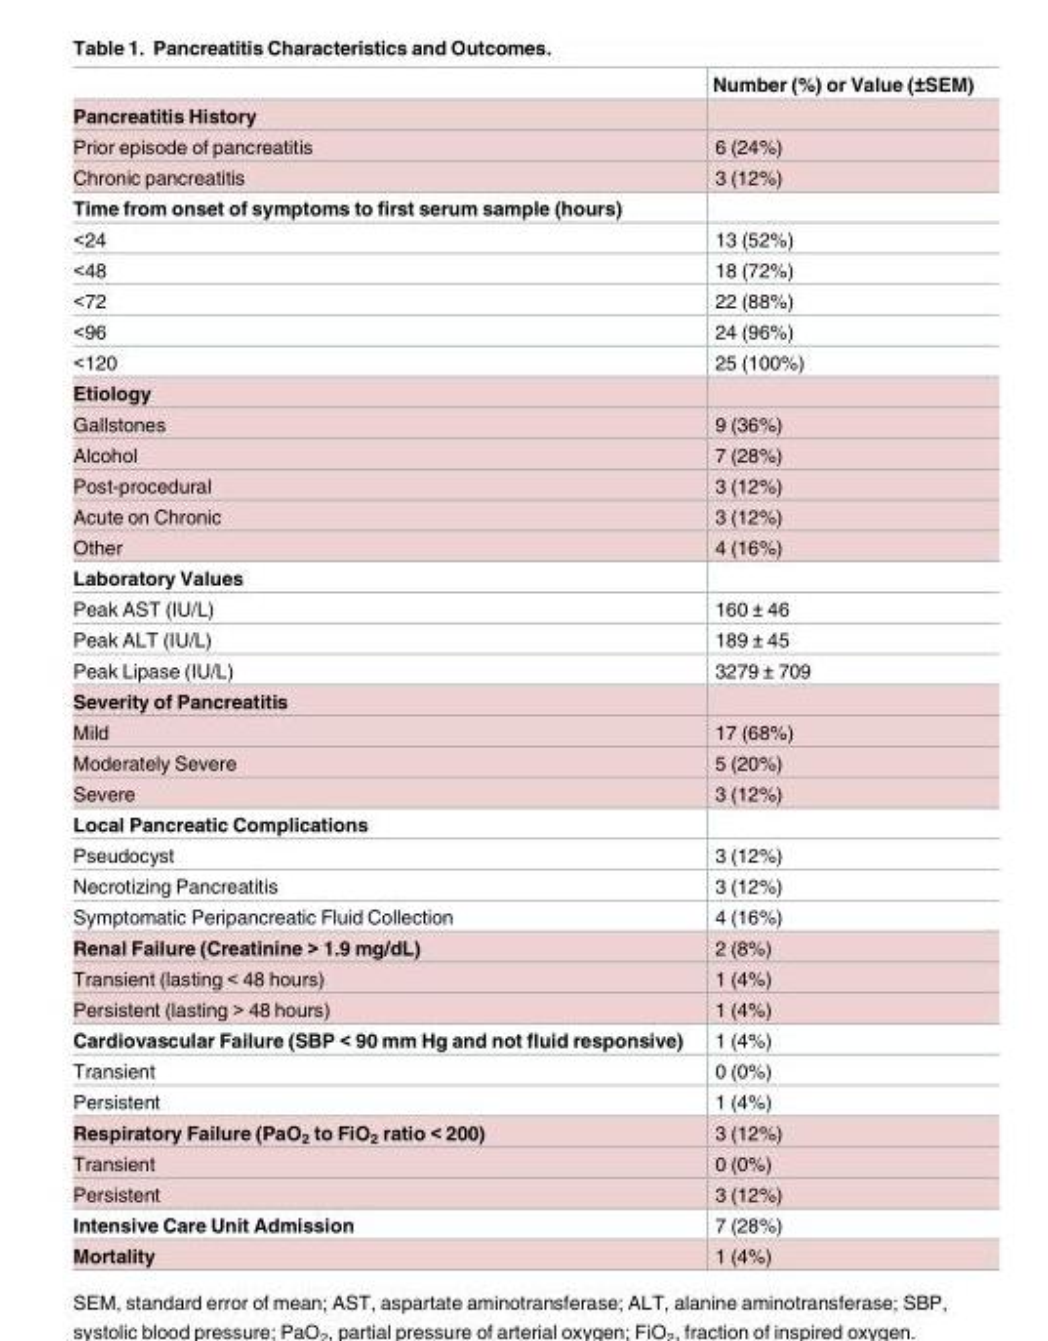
<table><thead><tr><td></td><td>Number (%) or Value (±SEM)</td></tr></thead><tbody><tr><td colspan="2">Pancreatitis History</td></tr><tr><td>Prior episode of pancreatitis</td><td>6 (24%)</td></tr><tr><td>Chronic pancreatitis</td><td>3 (12%)</td></tr><tr><td colspan="2">Time from onset of symptoms to first serum sample (hours)</td></tr><tr><td>&lt;24</td><td>13 (52%)</td></tr><tr><td>&lt;48</td><td>18 (72%)</td></tr><tr><td>&lt;72</td><td>22 (88%)</td></tr><tr><td>&lt;96</td><td>24 (96%)</td></tr><tr><td>&lt;120</td><td>25 (100%)</td></tr><tr><td colspan="2">Etiology</td></tr><tr><td>Gallstones</td><td>9 (36%)</td></tr><tr><td>Alcohol</td><td>7 (28%)</td></tr><tr><td>Post-procedural</td><td>3 (12%)</td></tr><tr><td>Acute on Chronic</td><td>3 (12%)</td></tr><tr><td>Other</td><td>4 (16%)</td></tr><tr><td colspan="2">Laboratory Values</td></tr><tr><td>Peak AST (IU/L)</td><td>160 ± 46</td></tr><tr><td>Peak ALT (IU/L)</td><td>189 ± 45</td></tr><tr><td>Peak Lipase (IU/L)</td><td>3279 ± 709</td></tr><tr><td colspan="2">Severity of Pancreatitis</td></tr><tr><td>Mild</td><td>17 (68%)</td></tr><tr><td>Moderately Severe</td><td>5 (20%)</td></tr><tr><td>Severe</td><td>3 (12%)</td></tr><tr><td colspan="2">Local Pancreatic Complications</td></tr><tr><td>Pseudocyst</td><td>3 (12%)</td></tr><tr><td>Necrotizing Pancreatitis</td><td>3 (12%)</td></tr><tr><td>Symptomatic Peripancreatic Fluid Collection</td><td>4 (16%)</td></tr><tr><td>Renal Failure (Creatinine &gt; 1.9 mg/dL)</td><td>2 (8%)</td></tr><tr><td>Transient (lasting &lt; 48 hours)</td><td>1 (4%)</td></tr><tr><td>Persistent (lasting &gt; 48 hours)</td><td>1 (4%)</td></tr><tr><td>Cardiovascular Failure (SBP &lt; 90 mm Hg and not fluid responsive)</td><td>1 (4%)</td></tr><tr><td>Transient</td><td>0 (0%)</td></tr><tr><td>Persistent</td><td>1 (4%)</td></tr><tr><td>Respiratory Failure (PaO<sub>2</sub> to FiO<sub>2</sub> ratio &lt; 200)</td><td>3 (12%)</td></tr><tr><td>Transient</td><td>0 (0%)</td></tr><tr><td>Persistent</td><td>3 (12%)</td></tr><tr><td>Intensive Care Unit Admission</td><td>7 (28%)</td></tr><tr><td>Mortality</td><td>1 (4%)</td></tr></tbody></table>